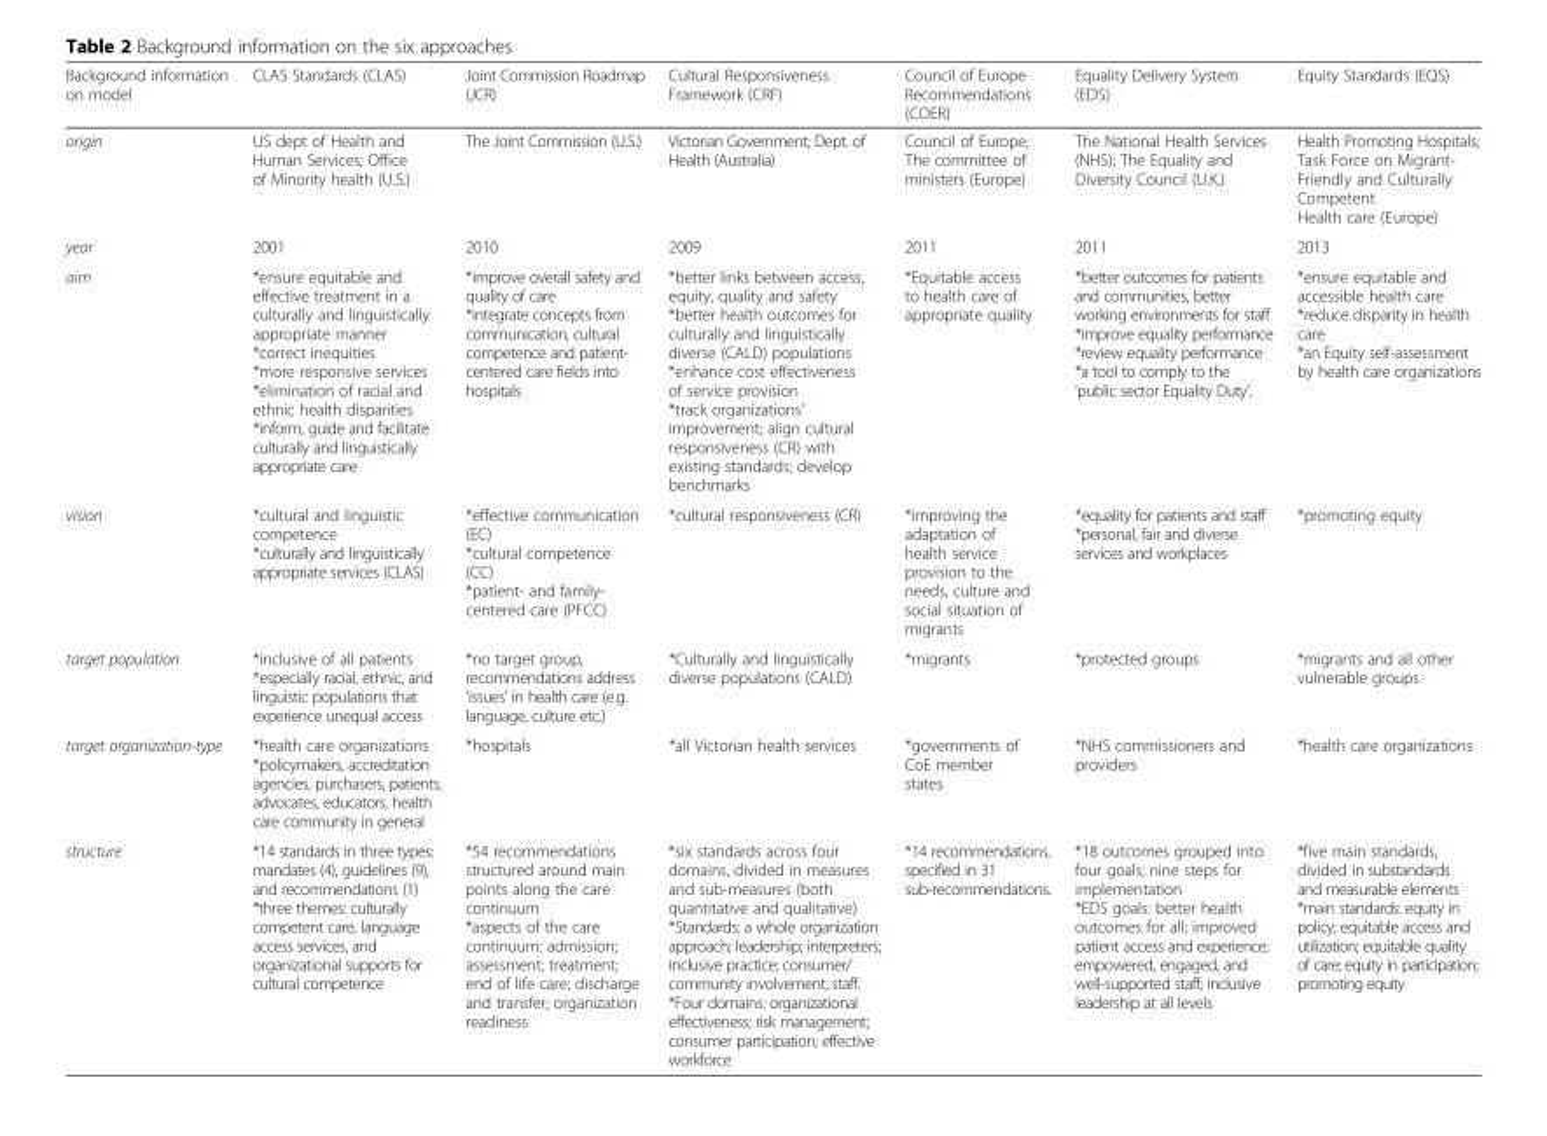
<table><thead><tr><td>Background information on model</td><td>CLAS Standards (CLAS)</td><td>Joint Commission Roadmap (JCR)</td><td>Cultural Responsiveness Framework (CRF)</td><td>Council of Europe Recommendations (COER)</td><td>Equality Delivery System (EDS)</td><td>Equity Standards (EQS)</td></tr></thead><tbody><tr><td>origin</td><td>US dept of Health and Human Services; Office of Minority health (U.S.)</td><td>The Joint Commission (U.S.)</td><td>Victorian Government; Dept. of Health (Australia)</td><td>Council of Europe; The committee of ministers (Europe)</td><td>The National Health Services (NHS); The Equality and Diversity Council (U.K.)</td><td>Health Promoting Hospitals; Task Force on Migrant- Friendly and Culturally Competent Health care (Europe)</td></tr><tr><td>year</td><td>2001</td><td>2010</td><td>2009</td><td>2011</td><td>2011</td><td>2013</td></tr><tr><td>aim</td><td>*ensure equitable and effective treatment in a culturally and linguistically appropriate manner *correct inequities *more responsive services *elimination of racial and ethnic health disparities *inform, guide and facilitate culturally and linguistically appropriate care</td><td>*improve overall safety and quality of care *integrate concepts from communication, cultural competence and patient- centered care fields into hospitals</td><td>*better links between access, equity, quality and safety *better health outcomes for culturally and linguistically diverse (CALD) populations *enhance cost effectiveness of service provision *track organizations&#x27; improvement; align cultural responsiveness (CR) with existing standards; develop benchmarks</td><td>*Equitable access to health care of appropriate quality</td><td>*better outcomes for patients and communities, better working environments for staff *improve equality performance *review equality performance *a tool to comply to the ‘public sector Equality Duty’.</td><td>*ensure equitable and accessible health care *reduce disparity in health care *an Equity self-assessment by health care organizations</td></tr><tr><td>vision</td><td>*cultural and linguistic competence *culturally and linguistically appropriate services (CLAS)</td><td>*effective communication (EC) *cultural competence (CC) *patient- and family- centered care (PFCC)</td><td>*cultural responsiveness (CR)</td><td>*improving the adaptation of health service provision to the needs, culture and social situation of migrants</td><td>*equality for patients and staff *personal, fair and diverse services and workplaces</td><td>*promoting equity</td></tr><tr><td>target population</td><td>*inclusive of all patients *especially racial, ethnic, and linguistic populations that experience unequal access</td><td>*no target group, recommendations address &#x27;issues&#x27; in health care (e.g. language, culture etc.)</td><td>*Culturally and linguistically diverse populations (CALD)</td><td>*migrants</td><td>*protected groups</td><td>*migrants and all other vulnerable groups</td></tr><tr><td>target organization-type</td><td>*health care organizations *policymakers, accreditation agencies, purchasers, patients, advocates, educators, health care community in general</td><td>*hospitals</td><td>*all Victorian health services</td><td>*governments of CoE member states</td><td>*NHS commissioners and providers</td><td>*health care organizations</td></tr><tr><td>structure</td><td>*14 standards in three types: mandates (4), guidelines (9), and recommendations (1) *three themes: culturally competent care, language access services, and organizational supports for cultural competence</td><td>*54 recommendations structured around main points along the care continuum *aspects of the care continuum: admission; assessment; treatment; end of life care; discharge and transfer; organization readiness</td><td>*six standards across four domains, divided in measures and sub-measures (both quantitative and qualitative) *Standards: a whole organization approach; leadership; interpreters; inclusive practice; consumer/ community involvement; staff. *Four domains: organizational effectiveness; risk management; consumer participation; effective workforce</td><td>*14 recommendations, specified in 31 sub-recommendations.</td><td>*18 outcomes grouped into four goals; nine steps for implementation *EDS goals: better health outcomes for all; improved patient access and experience; empowered, engaged, and well-supported staff; inclusive leadership at all levels</td><td>*five main standards, divided in substandards and measurable elements *main standards: equity in policy; equitable access and utilization; equitable quality of care; equity in participation; promoting equity</td></tr></tbody></table>